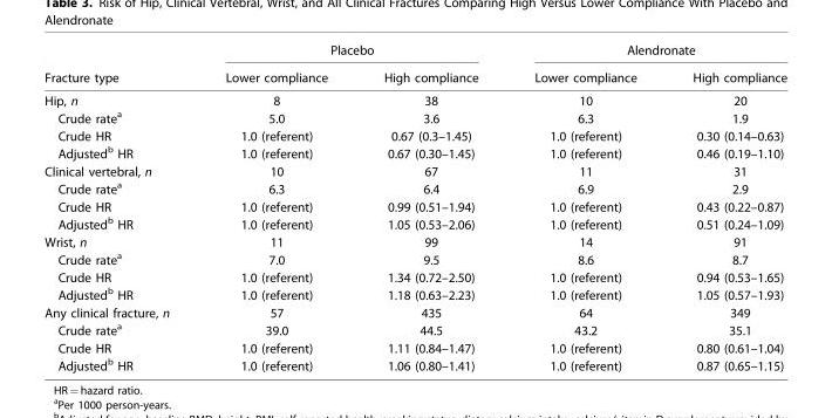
<table><thead><tr><td rowspan="2">Fracture type</td><td colspan="2">Placebo</td><td colspan="2">Alendronate</td></tr><tr><td>Lower compliance</td><td>High compliance</td><td>Lower compliance</td><td>High compliance</td></tr></thead><tbody><tr><td>Hip, n</td><td>8</td><td>38</td><td>10</td><td>20</td></tr><tr><td>Crude rate<sup>a</sup></td><td>5.0</td><td>3.6</td><td>6.3</td><td>1.9</td></tr><tr><td>Crude HR</td><td>1.0 (referent)</td><td>0.67 (0.3–1.45)</td><td>1.0 (referent)</td><td>0.30 (0.14–0.63)</td></tr><tr><td>Adjusted<sup>b</sup> HR</td><td>1.0 (referent)</td><td>0.67 (0.30–1.45)</td><td>1.0 (referent)</td><td>0.46 (0.19–1.10)</td></tr><tr><td>Clinical vertebral, n</td><td>10</td><td>67</td><td>11</td><td>31</td></tr><tr><td>Crude rate<sup>a</sup></td><td>6.3</td><td>6.4</td><td>6.9</td><td>2.9</td></tr><tr><td>Crude HR</td><td>1.0 (referent)</td><td>0.99 (0.51–1.94)</td><td>1.0 (referent)</td><td>0.43 (0.22–0.87)</td></tr><tr><td>Adjusted<sup>b</sup> HR</td><td>1.0 (referent)</td><td>1.05 (0.53–2.06)</td><td>1.0 (referent)</td><td>0.51 (0.24–1.09)</td></tr><tr><td>Wrist, n</td><td>11</td><td>99</td><td>14</td><td>91</td></tr><tr><td>Crude rate<sup>a</sup></td><td>7.0</td><td>9.5</td><td>8.6</td><td>8.7</td></tr><tr><td>Crude HR</td><td>1.0 (referent)</td><td>1.34 (0.72–2.50)</td><td>1.0 (referent)</td><td>0.94 (0.53–1.65)</td></tr><tr><td>Adjusted<sup>b</sup> HR</td><td>1.0 (referent)</td><td>1.18 (0.63–2.23)</td><td>1.0 (referent)</td><td>1.05 (0.57–1.93)</td></tr><tr><td>Any clinical fracture, n</td><td>57</td><td>435</td><td>64</td><td>349</td></tr><tr><td>Crude rate<sup>a</sup></td><td>39.0</td><td>44.5</td><td>43.2</td><td>35.1</td></tr><tr><td>Crude HR</td><td>1.0 (referent)</td><td>1.11 (0.84–1.47)</td><td>1.0 (referent)</td><td>0.80 (0.61–1.04)</td></tr><tr><td>Adjusted<sup>b</sup> HR</td><td>1.0 (referent)</td><td>1.06 (0.80–1.41)</td><td>1.0 (referent)</td><td>0.87 (0.65–1.15)</td></tr></tbody></table>